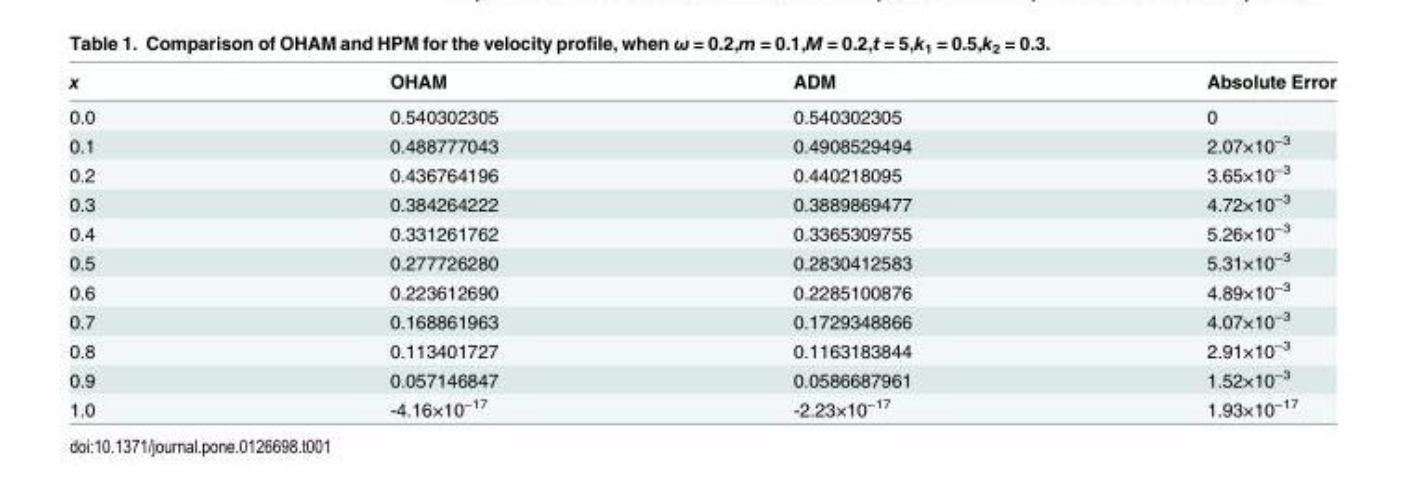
<table><thead><tr><td>x</td><td>OHAM</td><td>ADM</td><td>Absolute Error</td></tr></thead><tbody><tr><td>0.0</td><td>0.540302305</td><td>0.540302305</td><td>0</td></tr><tr><td>0.1</td><td>0.488777043</td><td>0.4908529494</td><td>2.07×10<sup>−3</sup></td></tr><tr><td>0.2</td><td>0.436764196</td><td>0.440218095</td><td>3.65×10<sup>−3</sup></td></tr><tr><td>0.3</td><td>0.384264222</td><td>0.3889869477</td><td>4.72×10<sup>−3</sup></td></tr><tr><td>0.4</td><td>0.331261762</td><td>0.3365309755</td><td>5.26×10<sup>−3</sup></td></tr><tr><td>0.5</td><td>0.277726280</td><td>0.2830412583</td><td>5.31×10<sup>−3</sup></td></tr><tr><td>0.6</td><td>0.223612690</td><td>0.2285100876</td><td>4.89×10<sup>−3</sup></td></tr><tr><td>0.7</td><td>0.168861963</td><td>0.1729348866</td><td>4.07×10<sup>−3</sup></td></tr><tr><td>0.8</td><td>0.113401727</td><td>0.1163183844</td><td>2.91×10<sup>−3</sup></td></tr><tr><td>0.9</td><td>0.057146847</td><td>0.0586687961</td><td>1.52×10<sup>−3</sup></td></tr><tr><td>1.0</td><td>-4.16×10<sup>−17</sup></td><td>-2.23×10<sup>−17</sup></td><td>1.93×10<sup>−17</sup></td></tr></tbody></table>